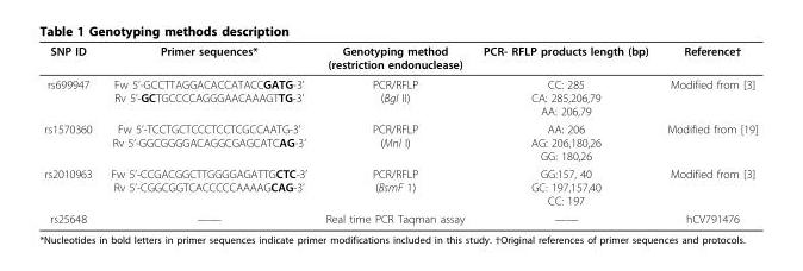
<table><thead><tr><td>SNP ID</td><td>Primer sequences*</td><td>Genotyping method (restriction endonuclease)</td><td>PCR- RFLP products length (bp)</td><td>Reference†</td></tr></thead><tbody><tr><td>rs699947</td><td>Fw 5’-GCCTTAGGACACCATACCGATG-3’ Rv 5’-GCTGCCCCAGGGAACAAAGTTG-3’</td><td>PCR/RFLP (Bgl II)</td><td>CC: 285 CA: 285,206,79 AA: 206,79</td><td>Modified from [3]</td></tr><tr><td>rs1570360</td><td>Fw 5’-TCCTGCTCCCTCCTCGCCAATG-3’ Rv 5’-GGCGGGGACAGGCGAGCATCAG-3’</td><td>PCR/RFLP (Mnl I)</td><td>AA: 206 AG: 206,180,26 GG: 180,26</td><td>Modified from [19]</td></tr><tr><td>rs2010963</td><td>Fw 5’-CCGACGGCTTGGGGAGATTGCTC-3’ Rv 5’-CGGCGGTCACCCCCAAAAGCAG-3’</td><td>PCR/RFLP (BsmF 1)</td><td>GG:157, 40 GC: 197,157,40 CC: 197</td><td>Modified from [3]</td></tr><tr><td>rs25648</td><td>——</td><td>Real time PCR Taqman assay</td><td>——</td><td>hCV791476</td></tr></tbody></table>